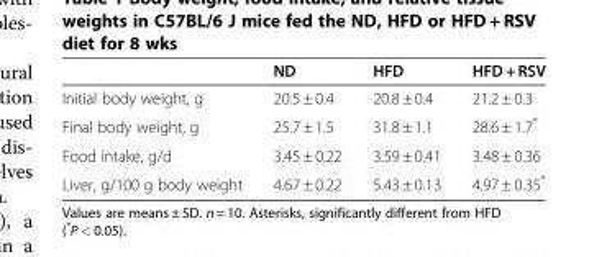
<table><thead><tr><td></td><td>ND</td><td>HFD</td><td>HFD + RSV</td></tr></thead><tbody><tr><td>Initial body weight, g</td><td>20.5 ± 0.4</td><td>20.8 ± 0.4</td><td>21.2 ± 0.3</td></tr><tr><td>Final body weight, g</td><td>25.7 ± 1.5</td><td>31.8 ± 1.1</td><td>28.6 ± 1.7*</td></tr><tr><td>Food intake, g/d</td><td>3.45 ± 0.22</td><td>3.59 ± 0.41</td><td>3.48 ± 0.36</td></tr><tr><td>Liver, g/100 g body weight</td><td>4.67 ± 0.22</td><td>5.43 ± 0.13</td><td>4.97 ± 0.35*</td></tr></tbody></table>